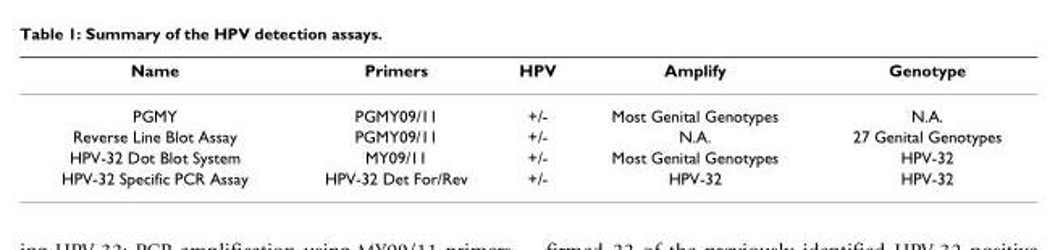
<table><thead><tr><td>Name</td><td>Primers</td><td>HPV</td><td>Amplify</td><td>Genotype</td></tr></thead><tbody><tr><td>PGMY</td><td>PGMY09/11</td><td>+/-</td><td>Most Genital Genotypes</td><td>N.A.</td></tr><tr><td>Reverse Line Blot Assay</td><td>PGMY09/11</td><td>+/-</td><td>N.A.</td><td>27 Genital Genotypes</td></tr><tr><td>HPV-32 Dot Blot System</td><td>MY09/11</td><td>+/-</td><td>Most Genital Genotypes</td><td>HPV-32</td></tr><tr><td>HPV-32 Specific PCR Assay</td><td>HPV-32 Det For/Rev</td><td>+/-</td><td>HPV-32</td><td>HPV-32</td></tr></tbody></table>